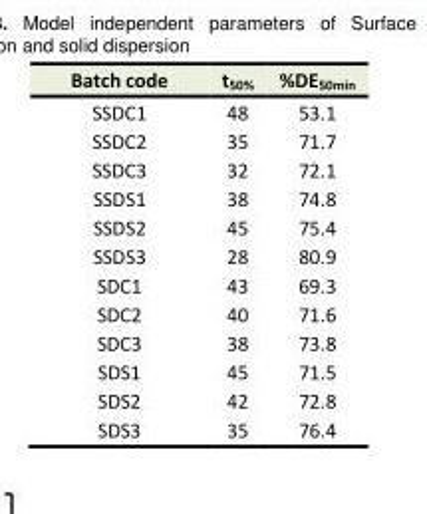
<table><tbody><tr><td>Batch code</td><td>t<sub>50%</sub></td><td>%DE<sub>50min</sub></td></tr><tr><td>SSDC1</td><td>48</td><td>53.1</td></tr><tr><td>SSDC2</td><td>35</td><td>71.7</td></tr><tr><td>SSDC3</td><td>32</td><td>72.1</td></tr><tr><td>SSDS1</td><td>38</td><td>74.8</td></tr><tr><td>SSDS2</td><td>45</td><td>75.4</td></tr><tr><td>SSDS3</td><td>28</td><td>80.9</td></tr><tr><td>SDC1</td><td>43</td><td>69.3</td></tr><tr><td>SDC2</td><td>40</td><td>71.6</td></tr><tr><td>SDC3</td><td>38</td><td>73.8</td></tr><tr><td>SDS1</td><td>45</td><td>71.5</td></tr><tr><td>SDS2</td><td>42</td><td>72.8</td></tr><tr><td>SDS3</td><td>35</td><td>76.4</td></tr></tbody></table>